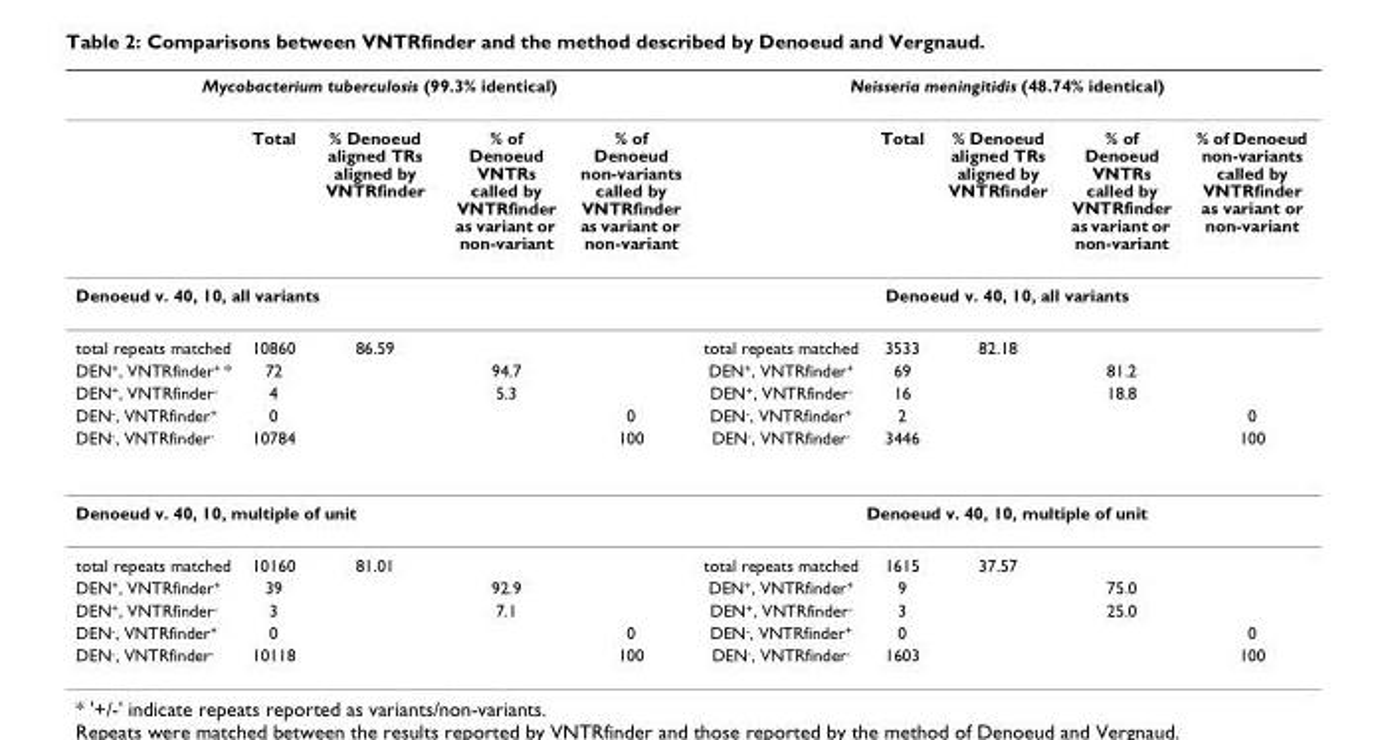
<table><thead><tr><td colspan="5">Mycobacterium tuberculosis (99.3% identical)</td><td colspan="5">Neisseria meningitidis (48.74% identical)</td></tr><tr><td></td><td>Total</td><td>% Denoeud aligned TRs aligned by VNTRfinder</td><td>% of Denoeud VNTRs called by VNTRfinder as variant or non-variant</td><td>% of Denoeud non-variants called by VNTRfinder as variant or non-variant</td><td></td><td>Total</td><td>% Denoeud aligned TRs aligned by VNTRfinder</td><td>% of Denoeud VNTRs called by VNTRfinder as variant or non-variant</td><td>% of Denoeud non-variants called by VNTRfinder as variant or non-variant</td></tr></thead><tbody><tr><td colspan="5">Denoeud v. 40, 10, all variants</td><td colspan="5">Denoeud v. 40, 10, all variants</td></tr><tr><td>total repeats matched</td><td>10860</td><td>86.59</td><td></td><td></td><td>total repeats matched</td><td>3533</td><td>82.18</td><td></td><td></td></tr><tr><td>DEN+, VNTRfinder+ *</td><td>72</td><td></td><td>94.7</td><td></td><td>DEN+, VNTRfinder+</td><td>69</td><td></td><td>81.2</td><td></td></tr><tr><td>DEN+, VNTRfinder-</td><td>4</td><td></td><td>5.3</td><td></td><td>DEN+, VNTRfinder-</td><td>16</td><td></td><td>18.8</td><td></td></tr><tr><td>DEN-, VNTRfinder+</td><td>0</td><td></td><td></td><td>0</td><td>DEN-, VNTRfinder+</td><td>2</td><td></td><td></td><td>0</td></tr><tr><td>DEN-, VNTRfinder-</td><td>10784</td><td></td><td></td><td>100</td><td>DEN-, VNTRfinder-</td><td>3446</td><td></td><td></td><td>100</td></tr><tr><td colspan="5">Denoeud v. 40, 10, multiple of unit</td><td colspan="5">Denoeud v. 40, 10, multiple of unit</td></tr><tr><td>total repeats matched</td><td>10160</td><td>81.01</td><td></td><td></td><td>total repeats matched</td><td>1615</td><td>37.57</td><td></td><td></td></tr><tr><td>DEN+, VNTRfinder+</td><td>39</td><td></td><td>92.9</td><td></td><td>DEN+, VNTRfinder+</td><td>9</td><td></td><td>75.0</td><td></td></tr><tr><td>DEN+, VNTRfinder-</td><td>3</td><td></td><td>7.1</td><td></td><td>DEN+, VNTRfinder-</td><td>3</td><td></td><td>25.0</td><td></td></tr><tr><td>DEN-, VNTRfinder+</td><td>0</td><td></td><td></td><td>0</td><td>DEN-, VNTRfinder+</td><td>0</td><td></td><td></td><td>0</td></tr><tr><td>DEN-, VNTRfinder-</td><td>10118</td><td></td><td></td><td>100</td><td>DEN-, VNTRfinder-</td><td>1603</td><td></td><td></td><td>100</td></tr></tbody></table>